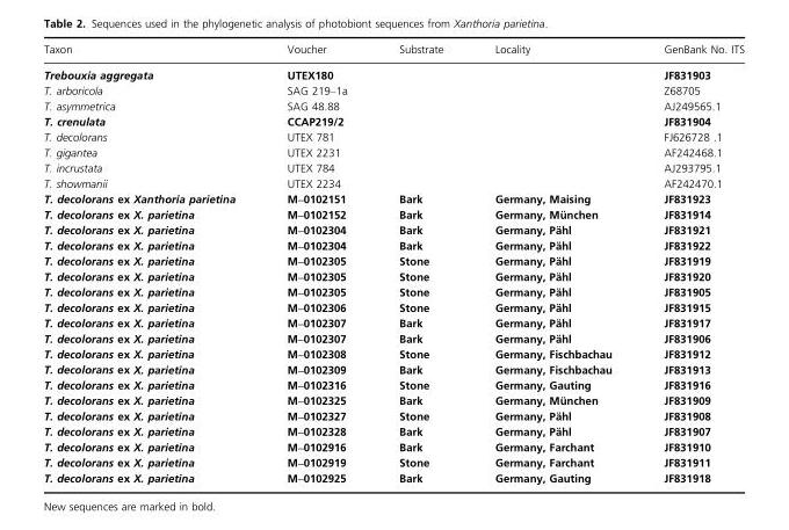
<table><thead><tr><td>Taxon</td><td>Voucher</td><td>Substrate</td><td>Locality</td><td>GenBank No. ITS</td></tr></thead><tbody><tr><td>Trebouxia aggregata</td><td>UTEX180</td><td></td><td></td><td>JF831903</td></tr><tr><td>T. arboricola</td><td>SAG 219–1a</td><td></td><td></td><td>Z68705</td></tr><tr><td>T. asymmetrica</td><td>SAG 48.88</td><td></td><td></td><td>AJ249565.1</td></tr><tr><td>T. crenulata</td><td>CCAP219/2</td><td></td><td></td><td>JF831904</td></tr><tr><td>T. decolorans</td><td>UTEX 781</td><td></td><td></td><td>FJ626728 .1</td></tr><tr><td>T. gigantea</td><td>UTEX 2231</td><td></td><td></td><td>AF242468.1</td></tr><tr><td>T. incrustata</td><td>UTEX 784</td><td></td><td></td><td>AJ293795.1</td></tr><tr><td>T. showmanii</td><td>UTEX 2234</td><td></td><td></td><td>AF242470.1</td></tr><tr><td>T. decolorans ex Xanthoria parietina</td><td>M–0102151</td><td>Bark</td><td>Germany, Maising</td><td>JF831923</td></tr><tr><td>T. decolorans ex X. parietina</td><td>M–0102152</td><td>Bark</td><td>Germany, Mu¨ nchen</td><td>JF831914</td></tr><tr><td>T. decolorans ex X. parietina</td><td>M–0102304</td><td>Bark</td><td>Germany, Pa¨hl</td><td>JF831921</td></tr><tr><td>T. decolorans ex X. parietina</td><td>M–0102304</td><td>Bark</td><td>Germany, Pa¨hl</td><td>JF831922</td></tr><tr><td>T. decolorans ex X. parietina</td><td>M–0102305</td><td>Stone</td><td>Germany, Pa¨hl</td><td>JF831919</td></tr><tr><td>T. decolorans ex X. parietina</td><td>M–0102305</td><td>Stone</td><td>Germany, Pa¨hl</td><td>JF831920</td></tr><tr><td>T. decolorans ex X. parietina</td><td>M–0102305</td><td>Stone</td><td>Germany, Pa¨hl</td><td>JF831905</td></tr><tr><td>T. decolorans ex X. parietina</td><td>M–0102306</td><td>Stone</td><td>Germany, Pa¨hl</td><td>JF831915</td></tr><tr><td>T. decolorans ex X. parietina</td><td>M–0102307</td><td>Bark</td><td>Germany, Pa¨hl</td><td>JF831917</td></tr><tr><td>T. decolorans ex X. parietina</td><td>M–0102307</td><td>Bark</td><td>Germany, Pa¨hl</td><td>JF831906</td></tr><tr><td>T. decolorans ex X. parietina</td><td>M–0102308</td><td>Stone</td><td>Germany, Fischbachau</td><td>JF831912</td></tr><tr><td>T. decolorans ex X. parietina</td><td>M–0102309</td><td>Bark</td><td>Germany, Fischbachau</td><td>JF831913</td></tr><tr><td>T. decolorans ex X. parietina</td><td>M–0102316</td><td>Stone</td><td>Germany, Gauting</td><td>JF831916</td></tr><tr><td>T. decolorans ex X. parietina</td><td>M–0102325</td><td>Bark</td><td>Germany, Mu¨ nchen</td><td>JF831909</td></tr><tr><td>T. decolorans ex X. parietina</td><td>M–0102327</td><td>Stone</td><td>Germany, Pa¨hl</td><td>JF831908</td></tr><tr><td>T. decolorans ex X. parietina</td><td>M–0102328</td><td>Bark</td><td>Germany, Pa¨hl</td><td>JF831907</td></tr><tr><td>T. decolorans ex X. parietina</td><td>M–0102916</td><td>Bark</td><td>Germany, Farchant</td><td>JF831910</td></tr><tr><td>T. decolorans ex X. parietina</td><td>M–0102919</td><td>Stone</td><td>Germany, Farchant</td><td>JF831911</td></tr><tr><td>T. decolorans ex X. parietina</td><td>M–0102925</td><td>Bark</td><td>Germany, Gauting</td><td>JF831918</td></tr></tbody></table>